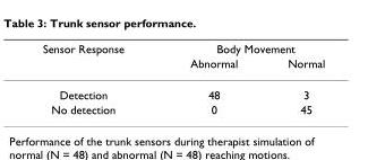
<table><thead><tr><td rowspan="2">Sensor Response</td><td colspan="2">Body Movement</td></tr><tr><td>Abnormal</td><td>Normal</td></tr></thead><tbody><tr><td>Detection</td><td>48</td><td>3</td></tr><tr><td>No detection</td><td>0</td><td>45</td></tr></tbody></table>